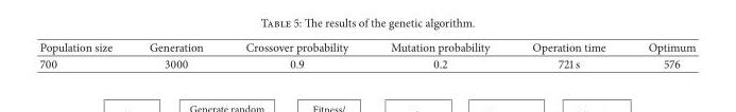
<table><thead><tr><td>Population size</td><td>Generation</td><td>Crossover probability</td><td>Mutation probability</td><td>Operation time</td><td>Optimum</td></tr></thead><tbody><tr><td>700</td><td>3000</td><td>0.9</td><td>0.2</td><td>721 s</td><td>576</td></tr></tbody></table>